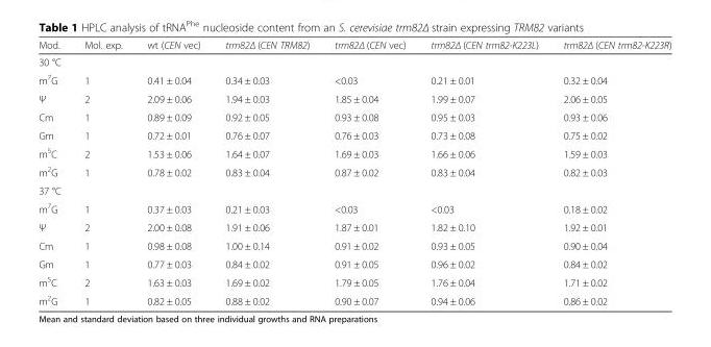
<table><thead><tr><td>Mod.</td><td>Mol. exp.</td><td>wt (CEN vec)</td><td>trm82Δ (CEN TRM82)</td><td>trm82Δ (CEN vec)</td><td>trm82Δ (CEN trm82-K223L)</td><td>trm82Δ (CEN trm82-K223R)</td></tr></thead><tbody><tr><td colspan="7">30 °C</td></tr><tr><td>m<sup>7</sup>G</td><td>1</td><td>0.41 ± 0.04</td><td>0.34 ± 0.03</td><td>&lt;0.03</td><td>0.21 ± 0.01</td><td>0.32 ± 0.04</td></tr><tr><td>Ψ</td><td>2</td><td>2.09 ± 0.06</td><td>1.94 ± 0.03</td><td>1.85 ± 0.04</td><td>1.99 ± 0.07</td><td>2.06 ± 0.05</td></tr><tr><td>Cm</td><td>1</td><td>0.89 ± 0.09</td><td>0.92 ± 0.05</td><td>0.93 ± 0.08</td><td>0.95 ± 0.03</td><td>0.93 ± 0.06</td></tr><tr><td>Gm</td><td>1</td><td>0.72 ± 0.01</td><td>0.76 ± 0.07</td><td>0.76 ± 0.03</td><td>0.73 ± 0.08</td><td>0.75 ± 0.02</td></tr><tr><td>m<sup>5</sup>C</td><td>2</td><td>1.53 ± 0.06</td><td>1.64 ± 0.07</td><td>1.69 ± 0.03</td><td>1.66 ± 0.06</td><td>1.59 ± 0.03</td></tr><tr><td>m<sup>2</sup>G</td><td>1</td><td>0.78 ± 0.02</td><td>0.83 ± 0.04</td><td>0.87 ± 0.02</td><td>0.83 ± 0.04</td><td>0.82 ± 0.03</td></tr><tr><td colspan="7">37 °C</td></tr><tr><td>m<sup>7</sup>G</td><td>1</td><td>0.37 ± 0.03</td><td>0.21 ± 0.03</td><td>&lt;0.03</td><td>&lt;0.03</td><td>0.18 ± 0.02</td></tr><tr><td>Ψ</td><td>2</td><td>2.00 ± 0.08</td><td>1.91 ± 0.06</td><td>1.87 ± 0.01</td><td>1.82 ± 0.10</td><td>1.92 ± 0.01</td></tr><tr><td>Cm</td><td>1</td><td>0.98 ± 0.08</td><td>1.00 ± 0.14</td><td>0.91 ± 0.02</td><td>0.93 ± 0.05</td><td>0.90 ± 0.04</td></tr><tr><td>Gm</td><td>1</td><td>0.77 ± 0.03</td><td>0.84 ± 0.02</td><td>0.91 ± 0.05</td><td>0.96 ± 0.02</td><td>0.84 ± 0.02</td></tr><tr><td>m<sup>5</sup>C</td><td>2</td><td>1.63 ± 0.03</td><td>1.69 ± 0.02</td><td>1.79 ± 0.05</td><td>1.76 ± 0.04</td><td>1.71 ± 0.02</td></tr><tr><td>m<sup>2</sup>G</td><td>1</td><td>0.82 ± 0.05</td><td>0.88 ± 0.02</td><td>0.90 ± 0.07</td><td>0.94 ± 0.06</td><td>0.86 ± 0.02</td></tr></tbody></table>